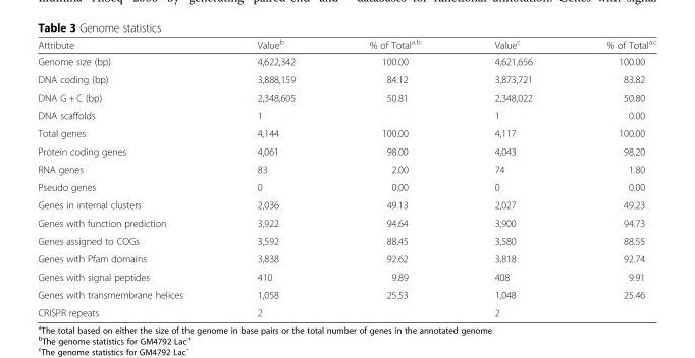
<table><thead><tr><td>Attribute</td><td>Value<sup>b</sup></td><td>% of Total<sup>a,b</sup></td><td>Value<sup>c</sup></td><td>% of Total<sup>a,c</sup></td></tr></thead><tbody><tr><td>Genome size (bp)</td><td>4,622,342</td><td>100.00</td><td>4,621,656</td><td>100.00</td></tr><tr><td>DNA coding (bp)</td><td>3,888,159</td><td>84.12</td><td>3,873,721</td><td>83.82</td></tr><tr><td>DNA G + C (bp)</td><td>2,348,605</td><td>50.81</td><td>2,348,022</td><td>50.80</td></tr><tr><td>DNA scaffolds</td><td>1</td><td></td><td>1</td><td>0.00</td></tr><tr><td>Total genes</td><td>4,144</td><td>100.00</td><td>4,117</td><td>100.00</td></tr><tr><td>Protein coding genes</td><td>4,061</td><td>98.00</td><td>4,043</td><td>98.20</td></tr><tr><td>RNA genes</td><td>83</td><td>2.00</td><td>74</td><td>1.80</td></tr><tr><td>Pseudo genes</td><td>0</td><td>0.00</td><td>0</td><td>0.00</td></tr><tr><td>Genes in internal clusters</td><td>2,036</td><td>49.13</td><td>2,027</td><td>49.23</td></tr><tr><td>Genes with function prediction</td><td>3,922</td><td>94.64</td><td>3,900</td><td>94.73</td></tr><tr><td>Genes assigned to COGs</td><td>3,592</td><td>88.45</td><td>3,580</td><td>88.55</td></tr><tr><td>Genes with Pfam domains</td><td>3,838</td><td>92.62</td><td>3,818</td><td>92.74</td></tr><tr><td>Genes with signal peptides</td><td>410</td><td>9.89</td><td>408</td><td>9.91</td></tr><tr><td>Genes with transmembrane helices</td><td>1,058</td><td>25.53</td><td>1,048</td><td>25.46</td></tr><tr><td>CRISPR repeats</td><td>2</td><td></td><td>2</td><td></td></tr></tbody></table>